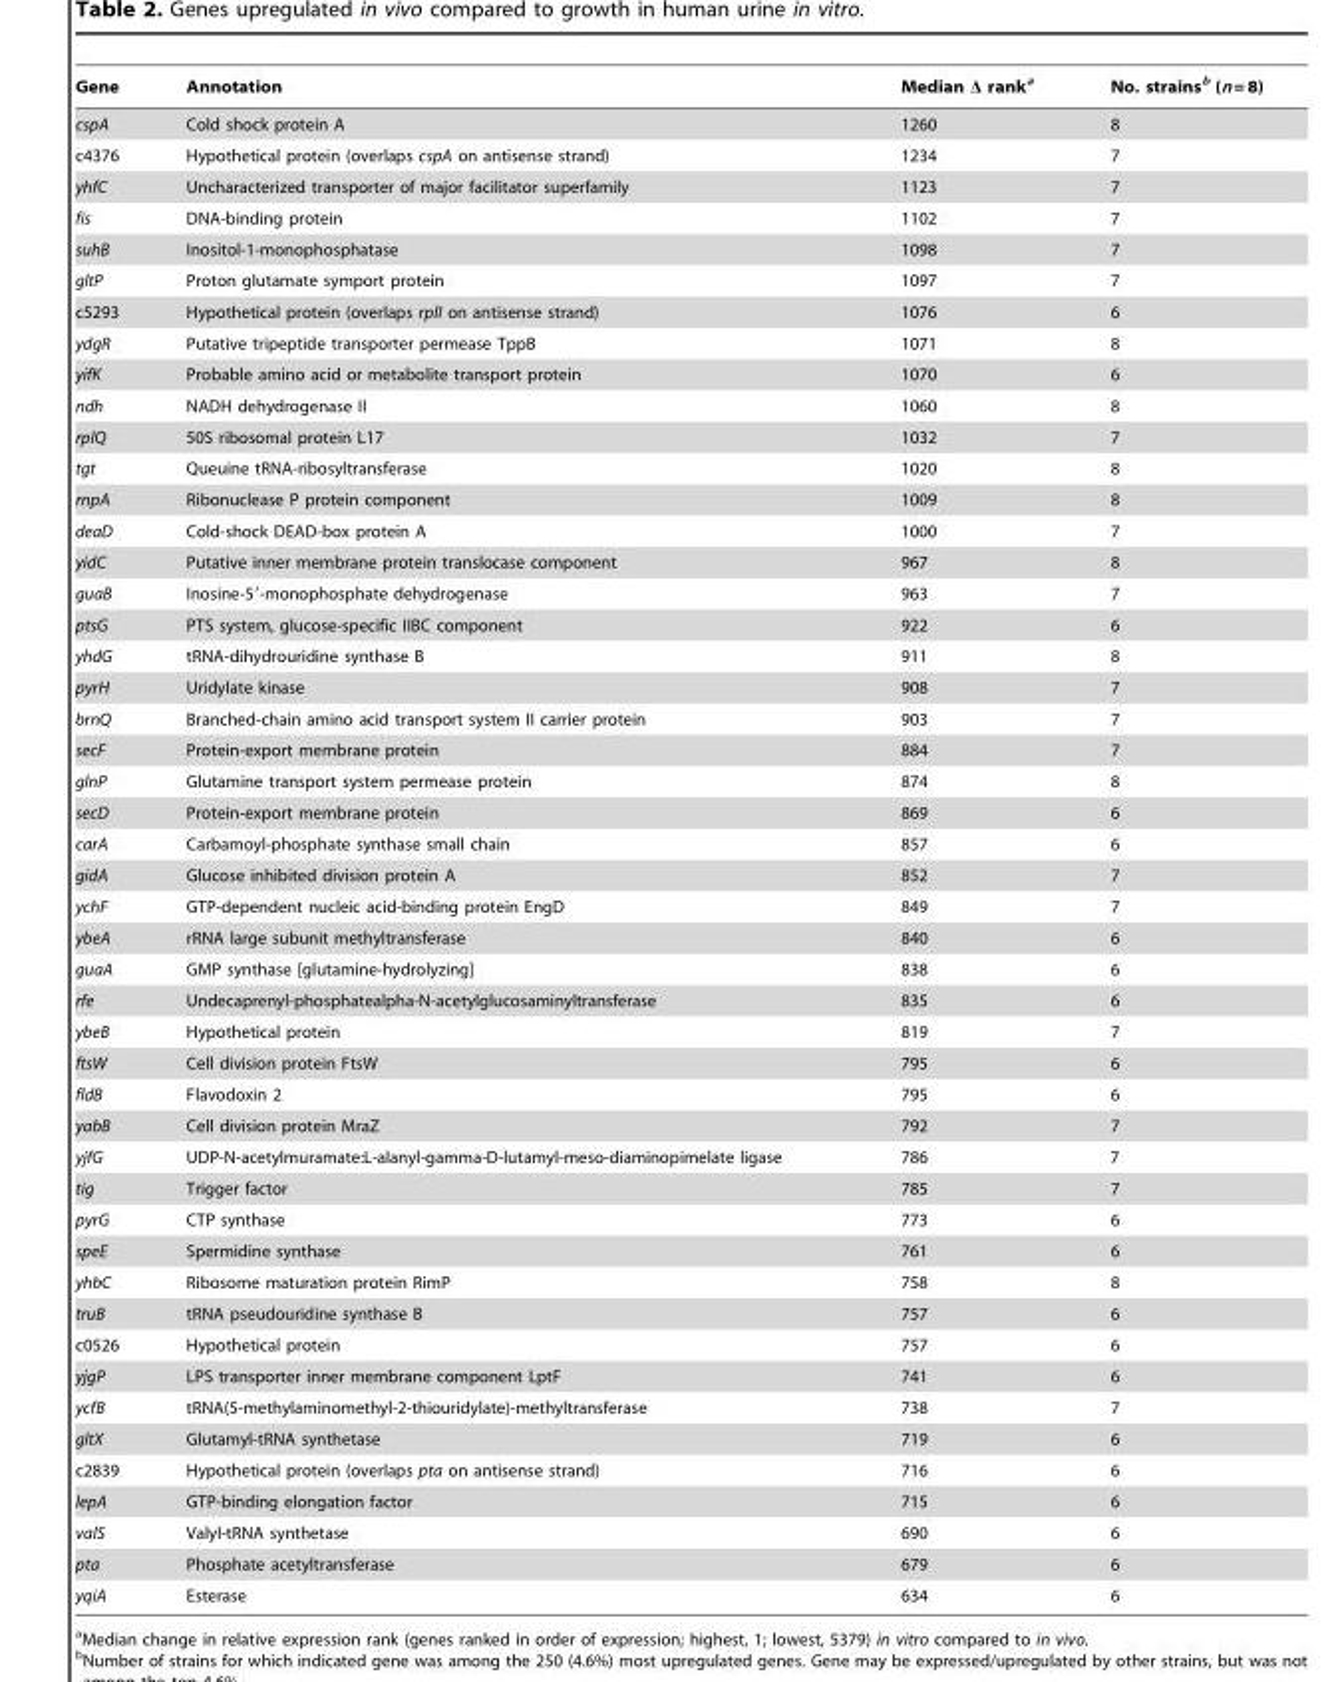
<table><thead><tr><td>Gene</td><td>Annotation</td><td>Median Δ rank<sup>a</sup></td><td>No. strains<sup>b</sup> (n = 8)</td></tr></thead><tbody><tr><td>cspA</td><td>Cold shock protein A</td><td>1260</td><td>8</td></tr><tr><td>c4376</td><td>Hypothetical protein (overlaps cspA on antisense strand)</td><td>1234</td><td>7</td></tr><tr><td>yhfC</td><td>Uncharacterized transporter of major facilitator superfamily</td><td>1123</td><td>7</td></tr><tr><td>fis</td><td>DNA-binding protein</td><td>1102</td><td>7</td></tr><tr><td>suhB</td><td>Inositol-1-monophosphatase</td><td>1098</td><td>7</td></tr><tr><td>gltP</td><td>Proton glutamate symport protein</td><td>1097</td><td>7</td></tr><tr><td>c5293</td><td>Hypothetical protein (overlaps rplI on antisense strand)</td><td>1076</td><td>6</td></tr><tr><td>ydgR</td><td>Putative tripeptide transporter permease TppB</td><td>1071</td><td>8</td></tr><tr><td>yifK</td><td>Probable amino acid or metabolite transport protein</td><td>1070</td><td>6</td></tr><tr><td>ndh</td><td>NADH dehydrogenase II</td><td>1060</td><td>8</td></tr><tr><td>rplQ</td><td>50S ribosomal protein L17</td><td>1032</td><td>7</td></tr><tr><td>tgt</td><td>Queuine tRNA-ribosyltransferase</td><td>1020</td><td>8</td></tr><tr><td>rnpA</td><td>Ribonuclease P protein component</td><td>1009</td><td>8</td></tr><tr><td>deaD</td><td>Cold-shock DEAD-box protein A</td><td>1000</td><td>7</td></tr><tr><td>yidC</td><td>Putative inner membrane protein translocase component</td><td>967</td><td>8</td></tr><tr><td>guaB</td><td>Inosine-5′-monophosphate dehydrogenase</td><td>963</td><td>7</td></tr><tr><td>ptsG</td><td>PTS system, glucose-specific IIBC component</td><td>922</td><td>6</td></tr><tr><td>yhdG</td><td>tRNA-dihydrouridine synthase B</td><td>911</td><td>8</td></tr><tr><td>pyrH</td><td>Uridylate kinase</td><td>908</td><td>7</td></tr><tr><td>brnQ</td><td>Branched-chain amino acid transport system II carrier protein</td><td>903</td><td>7</td></tr><tr><td>secF</td><td>Protein-export membrane protein</td><td>884</td><td>7</td></tr><tr><td>glnP</td><td>Glutamine transport system permease protein</td><td>874</td><td>8</td></tr><tr><td>secD</td><td>Protein-export membrane protein</td><td>869</td><td>6</td></tr><tr><td>carA</td><td>Carbamoyl-phosphate synthase small chain</td><td>857</td><td>6</td></tr><tr><td>gidA</td><td>Glucose inhibited division protein A</td><td>852</td><td>7</td></tr><tr><td>ychF</td><td>GTP-dependent nucleic acid-binding protein EngD</td><td>849</td><td>7</td></tr><tr><td>ybeA</td><td>rRNA large subunit methyltransferase</td><td>840</td><td>6</td></tr><tr><td>guaA</td><td>GMP synthase [glutamine-hydrolyzing]</td><td>838</td><td>6</td></tr><tr><td>rfe</td><td>Undecaprenyl-phosphatealpha-N-acetylglucosaminyltransferase</td><td>835</td><td>6</td></tr><tr><td>ybeB</td><td>Hypothetical protein</td><td>819</td><td>7</td></tr><tr><td>ftsW</td><td>Cell division protein FtsW</td><td>795</td><td>6</td></tr><tr><td>fldB</td><td>Flavodoxin 2</td><td>795</td><td>6</td></tr><tr><td>yabB</td><td>Cell division protein MraZ</td><td>792</td><td>7</td></tr><tr><td>yjfG</td><td>UDP-N-acetylmuramate:L-alanyl-gamma-D-lutamyl-meso-diaminopimelate ligase</td><td>786</td><td>7</td></tr><tr><td>tig</td><td>Trigger factor</td><td>785</td><td>7</td></tr><tr><td>pyrG</td><td>CTP synthase</td><td>773</td><td>6</td></tr><tr><td>speE</td><td>Spermidine synthase</td><td>761</td><td>6</td></tr><tr><td>yhbC</td><td>Ribosome maturation protein RimP</td><td>758</td><td>8</td></tr><tr><td>truB</td><td>tRNA pseudouridine synthase B</td><td>757</td><td>6</td></tr><tr><td>c0526</td><td>Hypothetical protein</td><td>757</td><td>6</td></tr><tr><td>yjgP</td><td>LPS transporter inner membrane component LptF</td><td>741</td><td>6</td></tr><tr><td>ycfB</td><td>tRNA(5-methylaminomethyl-2-thiouridylate)-methyltransferase</td><td>738</td><td>7</td></tr><tr><td>gltX</td><td>Glutamyl-tRNA synthetase</td><td>719</td><td>6</td></tr><tr><td>c2839</td><td>Hypothetical protein (overlaps pta on antisense strand)</td><td>716</td><td>6</td></tr><tr><td>lepA</td><td>GTP-binding elongation factor</td><td>715</td><td>6</td></tr><tr><td>valS</td><td>Valyl-tRNA synthetase</td><td>690</td><td>6</td></tr><tr><td>pta</td><td>Phosphate acetyltransferase</td><td>679</td><td>6</td></tr><tr><td>yqiA</td><td>Esterase</td><td>634</td><td>6</td></tr></tbody></table>